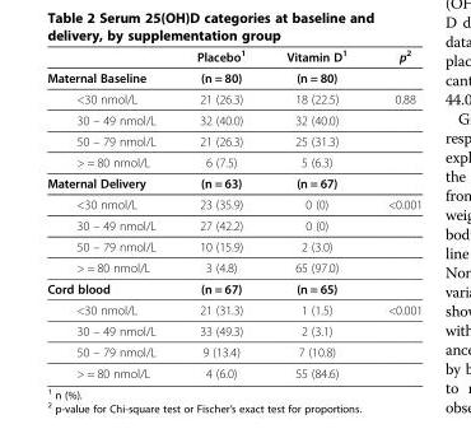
<table><thead><tr><td></td><td>Placebo<sup>1</sup></td><td>Vitamin D<sup>1</sup></td><td>p<sup>2</sup></td></tr></thead><tbody><tr><td>Maternal Baseline</td><td>(n = 80)</td><td>(n = 80)</td><td></td></tr><tr><td>&lt;30 nmol/L</td><td>21 (26.3)</td><td>18 (22.5)</td><td>0.88</td></tr><tr><td>30 – 49 nmol/L</td><td>32 (40.0)</td><td>32 (40.0)</td><td></td></tr><tr><td>50 – 79 nmol/L</td><td>21 (26.3)</td><td>25 (31.3)</td><td></td></tr><tr><td>&gt; = 80 nmol/L</td><td>6 (7.5)</td><td>5 (6.3)</td><td></td></tr><tr><td>Maternal Delivery</td><td>(n = 63)</td><td>(n = 67)</td><td></td></tr><tr><td>&lt;30 nmol/L</td><td>23 (35.9)</td><td>0 (0)</td><td>&lt;0.001</td></tr><tr><td>30 – 49 nmol/L</td><td>27 (42.2)</td><td>0 (0)</td><td></td></tr><tr><td>50 – 79 nmol/L</td><td>10 (15.9)</td><td>2 (3.0)</td><td></td></tr><tr><td>&gt; = 80 nmol/L</td><td>3 (4.8)</td><td>65 (97.0)</td><td></td></tr><tr><td>Cord blood</td><td>(n = 67)</td><td>(n = 65)</td><td></td></tr><tr><td>&lt;30 nmol/L</td><td>21 (31.3)</td><td>1 (1.5)</td><td>&lt;0.001</td></tr><tr><td>30 – 49 nmol/L</td><td>33 (49.3)</td><td>2 (3.1)</td><td></td></tr><tr><td>50 – 79 nmol/L</td><td>9 (13.4)</td><td>7 (10.8)</td><td></td></tr><tr><td>&gt; = 80 nmol/L</td><td>4 (6.0)</td><td>55 (84.6)</td><td></td></tr></tbody></table>